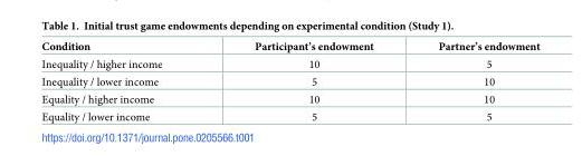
<table><thead><tr><td>Condition</td><td>Participant’s endowment</td><td>Partner’s endowment</td></tr></thead><tbody><tr><td>Inequality / higher income</td><td>10</td><td>5</td></tr><tr><td>Inequality / lower income</td><td>5</td><td>10</td></tr><tr><td>Equality / higher income</td><td>10</td><td>10</td></tr><tr><td>Equality / lower income</td><td>5</td><td>5</td></tr></tbody></table>